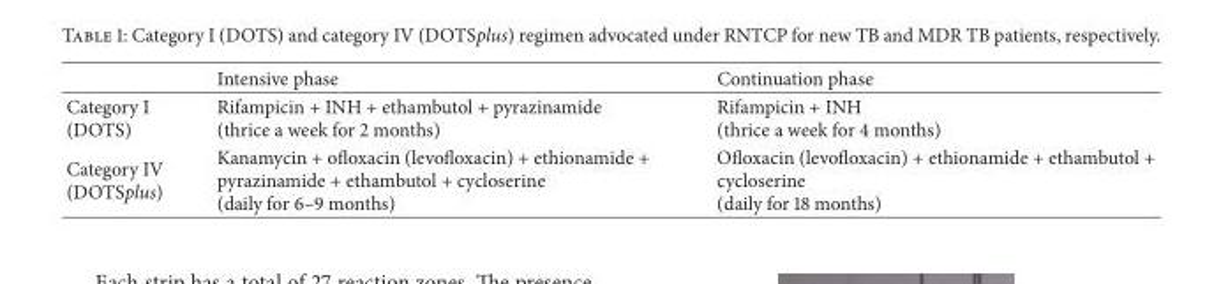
<table><thead><tr><td></td><td>Intensive phase</td><td>Continuation phase</td></tr></thead><tbody><tr><td>Category I (DOTS)</td><td>Rifampicin + INH + ethambutol + pyrazinamide (thrice a week for 2 months)</td><td>Rifampicin + INH (thrice a week for 4 months)</td></tr><tr><td>Category IV (DOTSplus)</td><td>Kanamycin + ofloxacin (levofloxacin) + ethionamide + pyrazinamide + ethambutol + cycloserine (daily for 6–9 months)</td><td>Ofloxacin (levofloxacin) + ethionamide + ethambutol + cycloserine (daily for 18 months)</td></tr></tbody></table>